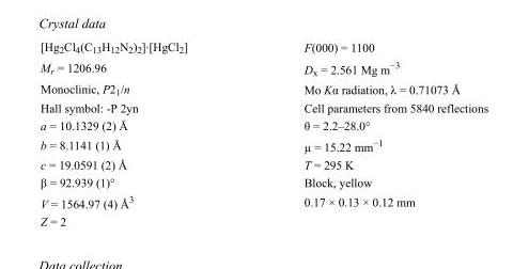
<table><tbody><tr><td>[Hg<sub>2</sub>Cl<sub>4</sub>(C<sub>13</sub>H<sub>12</sub>N<sub>2</sub>)<sub>2</sub>]·[HgCl<sub>2</sub>]</td><td>F(000) = 1100</td></tr><tr><td>M<sub>r</sub> = 1206.96</td><td>D<sub>x</sub> = 2.561 Mg m<sup>−3</sup></td></tr><tr><td>Monoclinic, P2<sub>1</sub>/n</td><td>Mo Kα radiation, λ = 0.71073 Å</td></tr><tr><td>Hall symbol: -P 2yn</td><td>Cell parameters from 5840 reflections</td></tr><tr><td>a = 10.1329 (2) Å</td><td>θ = 2.2–28.0°</td></tr><tr><td>b = 8.1141 (1) Å</td><td>µ = 15.22 mm<sup>−1</sup></td></tr><tr><td>c = 19.0591 (2) Å</td><td>T = 295 K</td></tr><tr><td>β = 92.939 (1)°</td><td>Block, yellow</td></tr><tr><td>V = 1564.97 (4) Å<sup>3</sup></td><td>0.17 × 0.13 × 0.12 mm</td></tr><tr><td>Z = 2</td><td></td></tr></tbody></table>